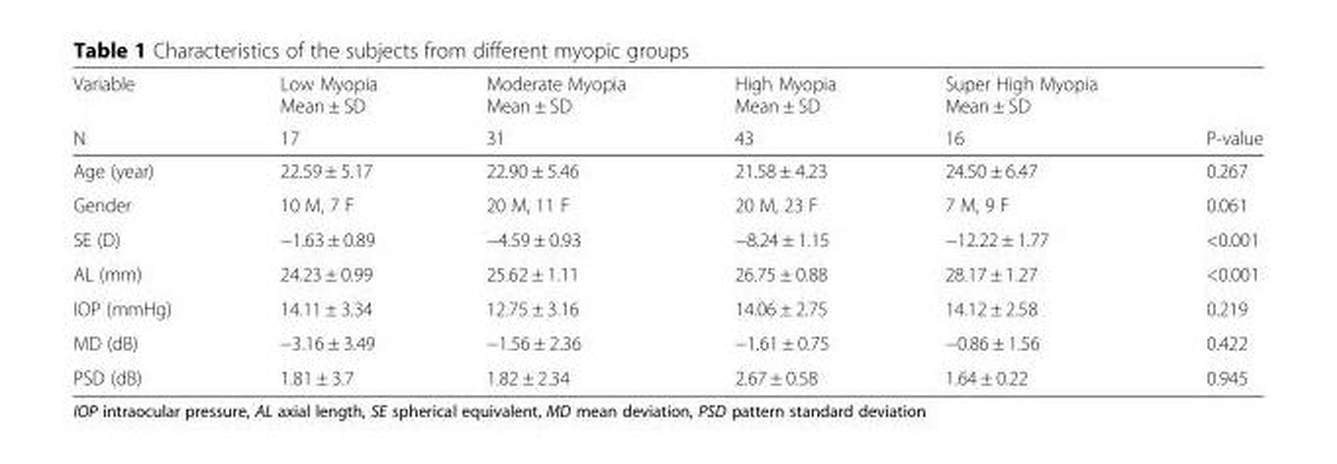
<table><thead><tr><td rowspan="2">Variable N</td><td rowspan="2">Low Myopia Mean ± SD 17</td><td rowspan="2">Moderate Myopia Mean ± SD 31</td><td rowspan="2">High Myopia Mean ± SD 43</td><td rowspan="2">Super High Myopia Mean ± SD 16</td><td rowspan="2">P-value</td></tr><tr></tr></thead><tbody><tr><td>Age (year)</td><td>22.59 ± 5.17</td><td>22.90 ± 5.46</td><td>21.58 ± 4.23</td><td>24.50 ± 6.47</td><td>0.267</td></tr><tr><td>Gender</td><td>10 M, 7 F</td><td>20 M, 11 F</td><td>20 M, 23 F</td><td>7 M, 9 F</td><td>0.061</td></tr><tr><td>SE (D)</td><td>−1.63 ± 0.89</td><td>−4.59 ± 0.93</td><td>−8.24 ± 1.15</td><td>−12.22 ± 1.77</td><td>&lt;0.001</td></tr><tr><td>AL (mm)</td><td>24.23 ± 0.99</td><td>25.62 ± 1.11</td><td>26.75 ± 0.88</td><td>28.17 ± 1.27</td><td>&lt;0.001</td></tr><tr><td>IOP (mmHg)</td><td>14.11 ± 3.34</td><td>12.75 ± 3.16</td><td>14.06 ± 2.75</td><td>14.12 ± 2.58</td><td>0.219</td></tr><tr><td>MD (dB)</td><td>−3.16 ± 3.49</td><td>−1.56 ± 2.36</td><td>−1.61 ± 0.75</td><td>−0.86 ± 1.56</td><td>0.422</td></tr><tr><td>PSD (dB)</td><td>1.81 ± 3.7</td><td>1.82 ± 2.34</td><td>2.67 ± 0.58</td><td>1.64 ± 0.22</td><td>0.945</td></tr></tbody></table>